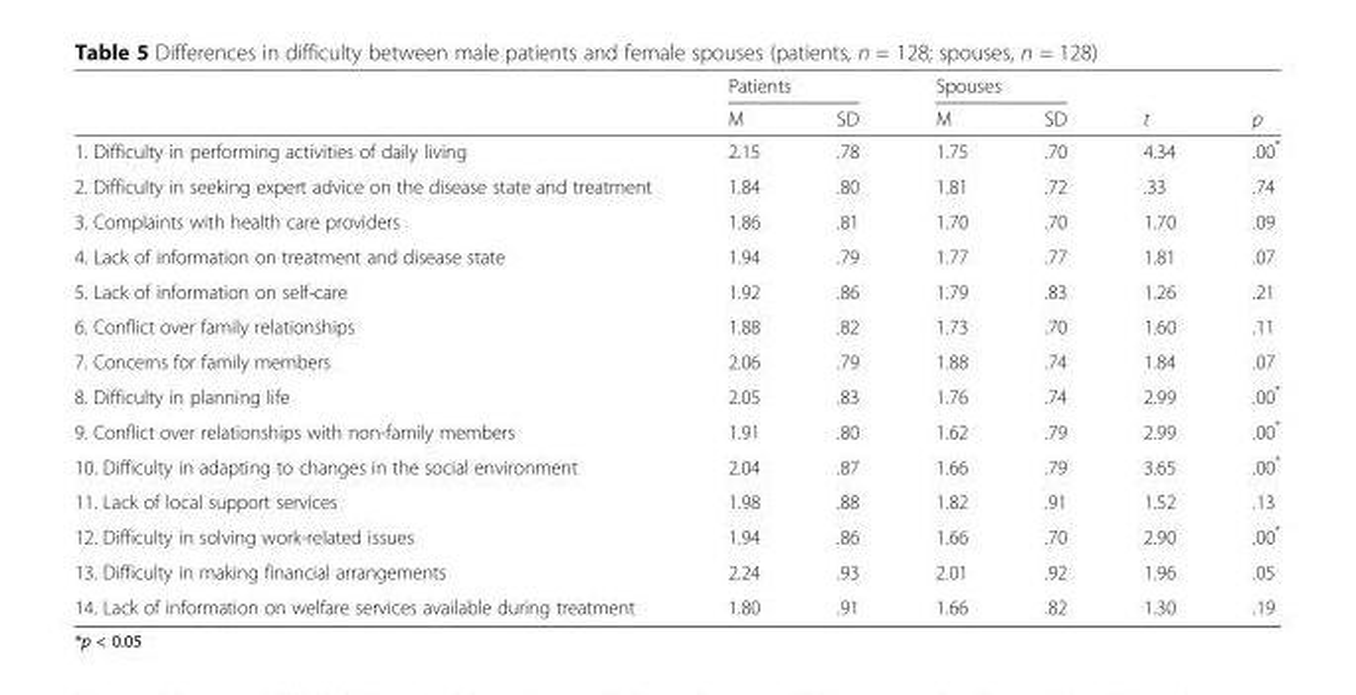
<table><thead><tr><td rowspan="2"></td><td colspan="2">Patients</td><td colspan="2">Spouses</td><td rowspan="2">t</td><td rowspan="2">p</td></tr><tr><td>M</td><td>SD</td><td>M</td><td>SD</td></tr></thead><tbody><tr><td>1. Difficulty in performing activities of daily living</td><td>2.15</td><td>.78</td><td>1.75</td><td>.70</td><td>4.34</td><td>.00*</td></tr><tr><td>2. Difficulty in seeking expert advice on the disease state and treatment</td><td>1.84</td><td>.80</td><td>1.81</td><td>.72</td><td>.33</td><td>.74</td></tr><tr><td>3. Complaints with health care providers</td><td>1.86</td><td>.81</td><td>1.70</td><td>.70</td><td>1.70</td><td>.09</td></tr><tr><td>4. Lack of information on treatment and disease state</td><td>1.94</td><td>.79</td><td>1.77</td><td>.77</td><td>1.81</td><td>.07</td></tr><tr><td>5. Lack of information on self-care</td><td>1.92</td><td>.86</td><td>1.79</td><td>.83</td><td>1.26</td><td>.21</td></tr><tr><td>6. Conflict over family relationships</td><td>1.88</td><td>.82</td><td>1.73</td><td>.70</td><td>1.60</td><td>.11</td></tr><tr><td>7. Concerns for family members</td><td>2.06</td><td>.79</td><td>1.88</td><td>.74</td><td>1.84</td><td>.07</td></tr><tr><td>8. Difficulty in planning life</td><td>2.05</td><td>.83</td><td>1.76</td><td>.74</td><td>2.99</td><td>.00*</td></tr><tr><td>9. Conflict over relationships with non-family members</td><td>1.91</td><td>.80</td><td>1.62</td><td>.79</td><td>2.99</td><td>.00*</td></tr><tr><td>10. Difficulty in adapting to changes in the social environment</td><td>2.04</td><td>.87</td><td>1.66</td><td>.79</td><td>3.65</td><td>.00*</td></tr><tr><td>11. Lack of local support services</td><td>1.98</td><td>.88</td><td>1.82</td><td>.91</td><td>1.52</td><td>.13</td></tr><tr><td>12. Difficulty in solving work-related issues</td><td>1.94</td><td>.86</td><td>1.66</td><td>.70</td><td>2.90</td><td>.00*</td></tr><tr><td>13. Difficulty in making financial arrangements</td><td>2.24</td><td>.93</td><td>2.01</td><td>.92</td><td>1.96</td><td>.05</td></tr><tr><td>14. Lack of information on welfare services available during treatment</td><td>1.80</td><td>.91</td><td>1.66</td><td>.82</td><td>1.30</td><td>.19</td></tr></tbody></table>